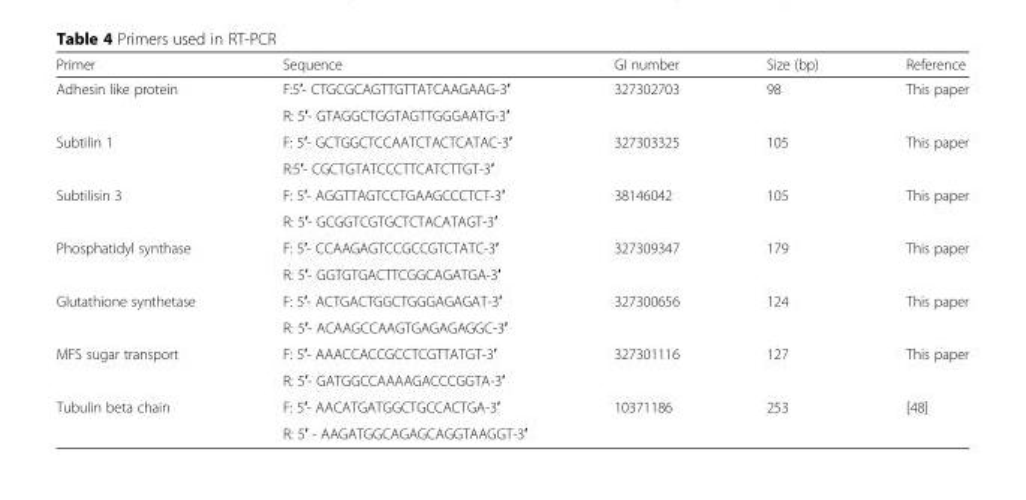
<table><thead><tr><td>Primer</td><td>Sequence</td><td>GI number</td><td>Size (bp)</td><td>Reference</td></tr></thead><tbody><tr><td rowspan="2">Adhesin like protein</td><td>F:5′- CTGCGCAGTTGTTATCAAGAAG-3′</td><td rowspan="2">327302703</td><td rowspan="2">98</td><td rowspan="2">This paper</td></tr><tr><td>R: 5′- GTAGGCTGGTAGTTGGGAATG-3′</td></tr><tr><td rowspan="2">Subtilin 1</td><td>F: 5′- GCTGGCTCCAATCTACTCATAC-3′</td><td rowspan="2">327303325</td><td rowspan="2">105</td><td rowspan="2">This paper</td></tr><tr><td>R:5′- CGCTGTATCCCTTCATCTTGT-3′</td></tr><tr><td rowspan="2">Subtilisin 3</td><td>F: 5′- AGGTTAGTCCTGAAGCCCTCT-3′</td><td rowspan="2">38146042</td><td rowspan="2">105</td><td rowspan="2">This paper</td></tr><tr><td>R: 5′- GCGGTCGTGCTCTACATAGT-3′</td></tr><tr><td rowspan="2">Phosphatidyl synthase</td><td>F: 5′- CCAAGAGTCCGCCGTCTATC-3′</td><td rowspan="2">327309347</td><td rowspan="2">179</td><td rowspan="2">This paper</td></tr><tr><td>R: 5′- GGTGTGACTTCGGCAGATGA-3′</td></tr><tr><td rowspan="2">Glutathione synthetase</td><td>F: 5′- ACTGACTGGCTGGGAGAGAT-3′</td><td rowspan="2">327300656</td><td rowspan="2">124</td><td rowspan="2">This paper</td></tr><tr><td>R: 5′- ACAAGCCAAGTGAGAGAGGC-3′</td></tr><tr><td rowspan="2">MFS sugar transport</td><td>F: 5′- AAACCACCGCCTCGTTATGT-3′</td><td rowspan="2">327301116</td><td rowspan="2">127</td><td rowspan="2">This paper</td></tr><tr><td>R: 5′- GATGGCCAAAAGACCCGGTA-3′</td></tr><tr><td rowspan="2">Tubulin beta chain</td><td>F: 5′- AACATGATGGCTGCCACTGA-3′</td><td rowspan="2">10371186</td><td rowspan="2">253</td><td rowspan="2">[48]</td></tr><tr><td>R: 5′ - AAGATGGCAGAGCAGGTAAGGT-3′</td></tr></tbody></table>